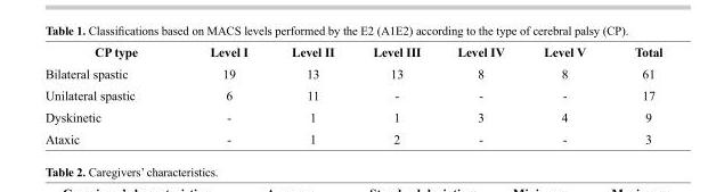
<table><thead><tr><td>CP type</td><td>Level I</td><td>Level II</td><td>Level III</td><td>Level IV</td><td>Level V</td><td>Total</td></tr></thead><tbody><tr><td>Bilateral spastic</td><td>19</td><td>13</td><td>13</td><td>8</td><td>8</td><td>61</td></tr><tr><td>Unilateral spastic</td><td>6</td><td>11</td><td>-</td><td>-</td><td>-</td><td>17</td></tr><tr><td>Dyskinetic</td><td>-</td><td>1</td><td>1</td><td>3</td><td>4</td><td>9</td></tr><tr><td>Ataxic</td><td>-</td><td>1</td><td>2</td><td>-</td><td>-</td><td>3</td></tr></tbody></table>